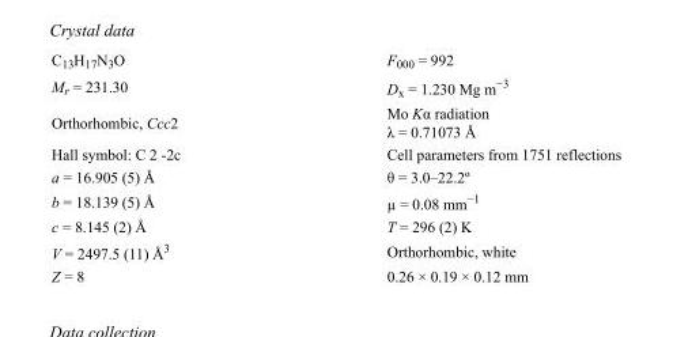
<table><tbody><tr><td>C<sub>13</sub>H<sub>17</sub>N<sub>3</sub>O</td><td>F<sub>000</sub> = 992</td></tr><tr><td>M<sub>r</sub> = 231.30</td><td>D<sub>x</sub> = 1.230 Mg m<sup>−3</sup></td></tr><tr><td>Orthorhombic, Ccc2</td><td>Mo Kα radiation λ = 0.71073 Å</td></tr><tr><td>Hall symbol: C 2 -2c</td><td>Cell parameters from 1751 reflections</td></tr><tr><td>a = 16.905 (5) Å</td><td>θ = 3.0–22.2º</td></tr><tr><td>b = 18.139 (5) Å</td><td>µ = 0.08 mm<sup>−1</sup></td></tr><tr><td>c = 8.145 (2) Å</td><td>T = 296 (2) K</td></tr><tr><td>V = 2497.5 (11) Å<sup>3</sup></td><td>Orthorhombic, white</td></tr><tr><td>Z = 8</td><td>0.26 × 0.19 × 0.12 mm</td></tr></tbody></table>